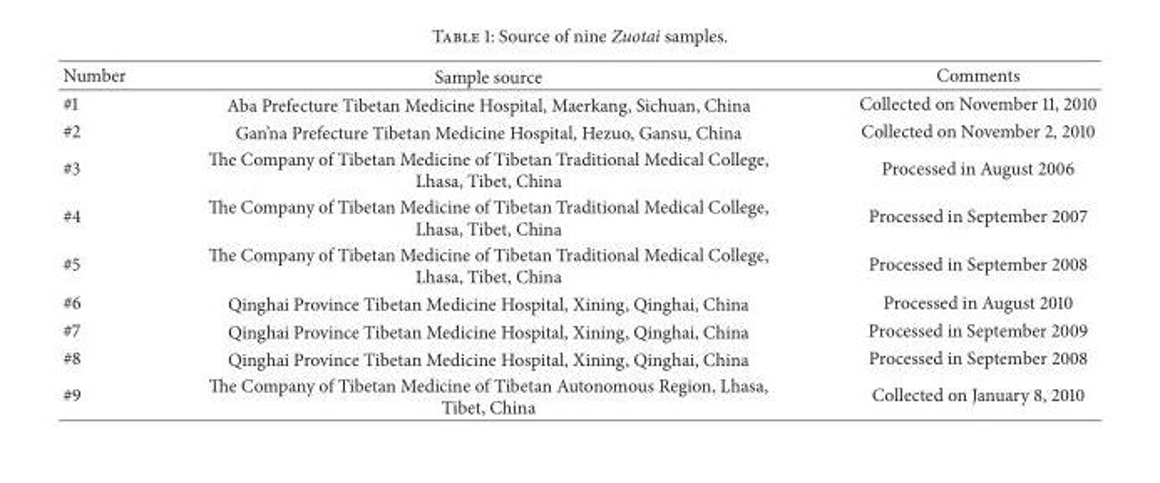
<table><thead><tr><td>Number</td><td>Sample source</td><td>Comments</td></tr></thead><tbody><tr><td>#1</td><td>Aba Prefecture Tibetan Medicine Hospital, Maerkang, Sichuan, China</td><td>Collected on November 11, 2010</td></tr><tr><td>#2</td><td>Gan’na Prefecture Tibetan Medicine Hospital, Hezuo, Gansu, China</td><td>Collected on November 2, 2010</td></tr><tr><td>#3</td><td>The Company of Tibetan Medicine of Tibetan Traditional Medical College, Lhasa, Tibet, China</td><td>Processed in August 2006</td></tr><tr><td>#4</td><td>The Company of Tibetan Medicine of Tibetan Traditional Medical College, Lhasa, Tibet, China</td><td>Processed in September 2007</td></tr><tr><td>#5</td><td>The Company of Tibetan Medicine of Tibetan Traditional Medical College, Lhasa, Tibet, China</td><td>Processed in September 2008</td></tr><tr><td>#6</td><td>Qinghai Province Tibetan Medicine Hospital, Xining, Qinghai, China</td><td>Processed in August 2010</td></tr><tr><td>#7</td><td>Qinghai Province Tibetan Medicine Hospital, Xining, Qinghai, China</td><td>Processed in September 2009</td></tr><tr><td>#8</td><td>Qinghai Province Tibetan Medicine Hospital, Xining, Qinghai, China</td><td>Processed in September 2008</td></tr><tr><td>#9</td><td>The Company of Tibetan Medicine of Tibetan Autonomous Region, Lhasa, Tibet, China</td><td>Collected on January 8, 2010</td></tr></tbody></table>